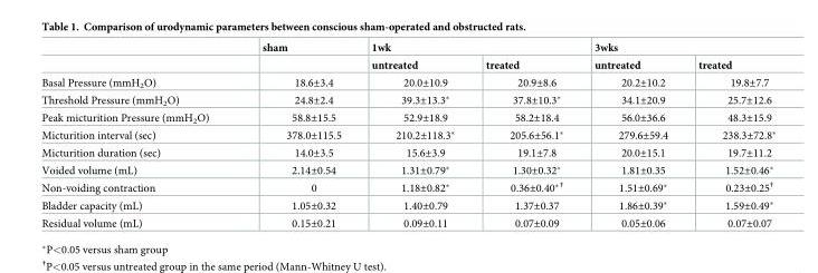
<table><thead><tr><td rowspan="2"></td><td rowspan="2">sham</td><td colspan="2">1wk</td><td colspan="2">3wks</td></tr><tr><td>untreated</td><td>treated</td><td>untreated</td><td>treated</td></tr></thead><tbody><tr><td>Basal Pressure (mmH<sub>2</sub>O)</td><td>18.6±3.4</td><td>20.0±10.9</td><td>20.9±8.6</td><td>20.2±10.2</td><td>19.8±7.7</td></tr><tr><td>Threshold Pressure (mmH<sub>2</sub>O)</td><td>24.8±2.4</td><td>39.3±13.3*</td><td>37.8±10.3*</td><td>34.1±20.9</td><td>25.7±12.6</td></tr><tr><td>Peak micturition Pressure (mmH<sub>2</sub>O)</td><td>58.8±15.5</td><td>52.9±18.9</td><td>58.2±18.4</td><td>56.0±36.6</td><td>48.3±15.9</td></tr><tr><td>Micturition interval (sec)</td><td>378.0±115.5</td><td>210.2±118.3*</td><td>205.6±56.1*</td><td>279.6±59.4</td><td>238.3±72.8*</td></tr><tr><td>Micturition duration (sec)</td><td>14.0±3.5</td><td>15.6±3.9</td><td>19.1±7.8</td><td>20.0±15.1</td><td>19.7±11.2</td></tr><tr><td>Voided volume (mL)</td><td>2.14±0.54</td><td>1.31±0.79*</td><td>1.30±0.32*</td><td>1.81±0.35</td><td>1.52±0.46*</td></tr><tr><td>Non-voiding contraction</td><td>0</td><td>1.18±0.82*</td><td>0.36±0.40*<sup>†</sup></td><td>1.51±0.69*</td><td>0.23±0.25<sup>†</sup></td></tr><tr><td>Bladder capacity (mL)</td><td>1.05±0.32</td><td>1.40±0.79</td><td>1.37±0.37</td><td>1.86±0.39*</td><td>1.59±0.49*</td></tr><tr><td>Residual volume (mL)</td><td>0.15±0.21</td><td>0.09±0.11</td><td>0.07±0.09</td><td>0.05±0.06</td><td>0.07±0.07</td></tr></tbody></table>